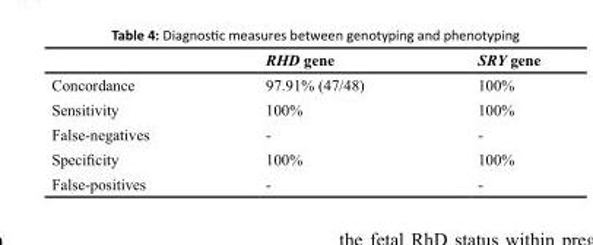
<table><thead><tr><td></td><td>RHD gene</td><td>SRY gene</td></tr></thead><tbody><tr><td>Concordance</td><td>97.91% (47/48)</td><td>100%</td></tr><tr><td>Sensitivity</td><td>100%</td><td>100%</td></tr><tr><td>False-negatives</td><td>-</td><td>-</td></tr><tr><td>Specificity</td><td>100%</td><td>100%</td></tr><tr><td>False-positives</td><td>-</td><td>-</td></tr></tbody></table>